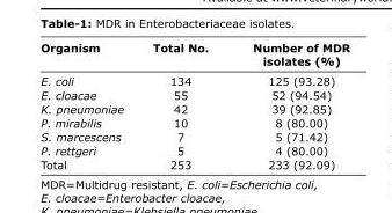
<table><thead><tr><td>Organism</td><td>Total No.</td><td>Number of MDR isolates (%)</td></tr></thead><tbody><tr><td>E. coli</td><td>134</td><td>125 (93.28)</td></tr><tr><td>E. cloacae</td><td>55</td><td>52 (94.54)</td></tr><tr><td>K. pneumoniae</td><td>42</td><td>39 (92.85)</td></tr><tr><td>P. mirabilis</td><td>10</td><td>8 (80.00)</td></tr><tr><td>S. marcescens</td><td>7</td><td>5 (71.42)</td></tr><tr><td>P. rettgeri</td><td>5</td><td>4 (80.00)</td></tr><tr><td>Total</td><td>253</td><td>233 (92.09)</td></tr></tbody></table>